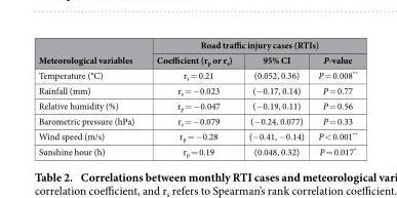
<table><thead><tr><td rowspan="2">Meteorological variables</td><td colspan="3">Road traffic injury cases (RTIs)</td></tr><tr><td>Coefficient (r<sub>p</sub> or r<sub>s</sub>)</td><td>95% CI</td><td>P-value</td></tr></thead><tbody><tr><td>Temperature (°C)</td><td>r<sub>s</sub> = 0.21</td><td>(0.052, 0.36)</td><td>P = 0.008**</td></tr><tr><td>Rainfall (mm)</td><td>r<sub>s</sub> = − 0.023</td><td>(− 0.17, 0.14)</td><td>P = 0.77</td></tr><tr><td>Relative humidity (%)</td><td>r<sub>p</sub> = − 0.047</td><td>(− 0.19, 0.11)</td><td>P = 0.56</td></tr><tr><td>Barometric pressure (hPa)</td><td>r<sub>s</sub> = − 0.079</td><td>(− 0.24, 0.077)</td><td>P = 0.33</td></tr><tr><td>Wind speed (m/s)</td><td>r<sub>p</sub> = − 0.28</td><td>(− 0.41, − 0.14)</td><td>P &lt; 0.001**</td></tr><tr><td>Sunshine hour (h)</td><td>r<sub>p</sub> = 0.19</td><td>(0.048, 0.32)</td><td>P = 0.017*</td></tr></tbody></table>